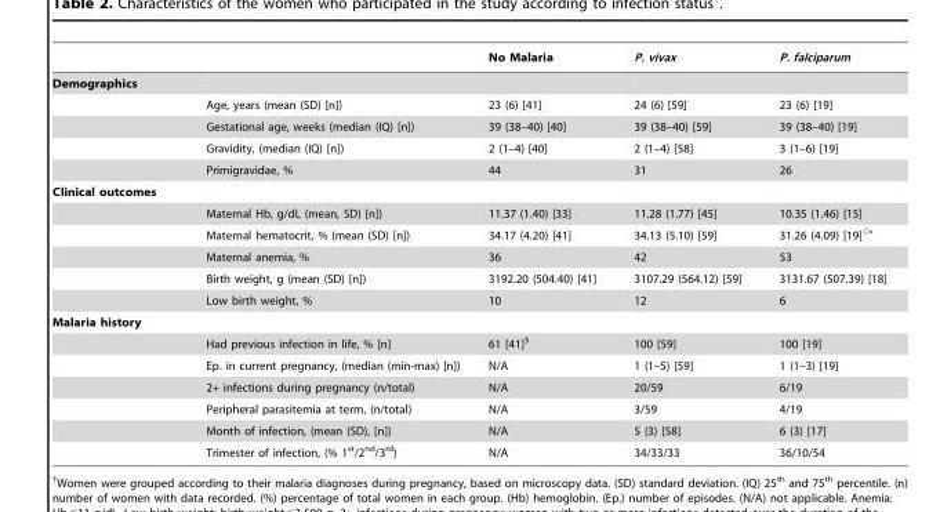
<table><thead><tr><td></td><td></td><td>No Malaria</td><td>P. vivax</td><td>P. falciparum</td></tr></thead><tbody><tr><td colspan="5">Demographics</td></tr><tr><td></td><td>Age, years (mean (SD) [n])</td><td>23 (6) [41]</td><td>24 (6) [59]</td><td>23 (6) [19]</td></tr><tr><td></td><td>Gestational age, weeks (median (IQ) [n])</td><td>39 (38–40) [40]</td><td>39 (38–40) [59]</td><td>39 (38–40) [19]</td></tr><tr><td></td><td>Gravidity, (median (IQ) [n])</td><td>2 (1–4) [40]</td><td>2 (1–4) [58]</td><td>3 (1–6) [19]</td></tr><tr><td></td><td>Primigravidae, %</td><td>44</td><td>31</td><td>26</td></tr><tr><td colspan="5">Clinical outcomes</td></tr><tr><td></td><td>Maternal Hb, g/dL (mean, SD) [n])</td><td>11.37 (1.40) [33]</td><td>11.28 (1.77) [45]</td><td>10.35 (1.46) [15]</td></tr><tr><td></td><td>Maternal hematocrit, % (mean (SD) [n])</td><td>34.17 (4.20) [41]</td><td>34.13 (5.10) [59]</td><td>31.26 (4.09) [19]◊•</td></tr><tr><td></td><td>Maternal anemia, %</td><td>36</td><td>42</td><td>53</td></tr><tr><td></td><td>Birth weight, g (mean (SD) [n])</td><td>3192.20 (504.40) [41]</td><td>3107.29 (564.12) [59]</td><td>3131.67 (507.39) [18]</td></tr><tr><td></td><td>Low birth weight, %</td><td>10</td><td>12</td><td>6</td></tr><tr><td colspan="5">Malaria history</td></tr><tr><td></td><td>Had previous infection in life, % [n]</td><td>61 [41]§</td><td>100 [59]</td><td>100 [19]</td></tr><tr><td></td><td>Ep. in current pregnancy, (median (min-max) [n])</td><td>N/A</td><td>1 (1–5) [59]</td><td>1 (1–3) [19]</td></tr><tr><td></td><td>2+ infections during pregnancy (n/total)</td><td>N/A</td><td>20/59</td><td>6/19</td></tr><tr><td></td><td>Peripheral parasitemia at term, (n/total)</td><td>N/A</td><td>3/59</td><td>4/19</td></tr><tr><td></td><td>Month of infection, (mean (SD), [n])</td><td>N/A</td><td>5 (3) [58]</td><td>6 (3) [17]</td></tr><tr><td></td><td>Trimester of infection, (% 1<sup>st</sup>/2<sup>nd</sup>/3<sup>rd</sup>)</td><td>N/A</td><td>34/33/33</td><td>36/10/54</td></tr></tbody></table>